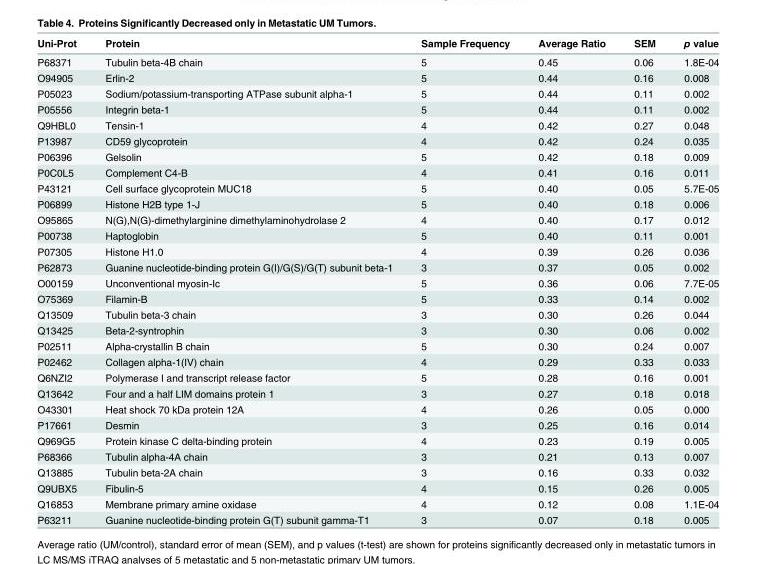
<table><thead><tr><td>Uni-Prot</td><td>Protein</td><td>Sample Frequency</td><td>Average Ratio</td><td>SEM</td><td>p value</td></tr></thead><tbody><tr><td>P68371</td><td>Tubulin beta-4B chain</td><td>5</td><td>0.45</td><td>0.06</td><td>1.8E-04</td></tr><tr><td>O94905</td><td>Erlin-2</td><td>5</td><td>0.44</td><td>0.16</td><td>0.008</td></tr><tr><td>P05023</td><td>Sodium/potassium-transporting ATPase subunit alpha-1</td><td>5</td><td>0.44</td><td>0.11</td><td>0.002</td></tr><tr><td>P05556</td><td>Integrin beta-1</td><td>5</td><td>0.44</td><td>0.11</td><td>0.002</td></tr><tr><td>Q9HBL0</td><td>Tensin-1</td><td>4</td><td>0.42</td><td>0.27</td><td>0.048</td></tr><tr><td>P13987</td><td>CD59 glycoprotein</td><td>4</td><td>0.42</td><td>0.24</td><td>0.035</td></tr><tr><td>P06396</td><td>Gelsolin</td><td>5</td><td>0.42</td><td>0.18</td><td>0.009</td></tr><tr><td>P0C0L5</td><td>Complement C4-B</td><td>4</td><td>0.41</td><td>0.16</td><td>0.011</td></tr><tr><td>P43121</td><td>Cell surface glycoprotein MUC18</td><td>5</td><td>0.40</td><td>0.05</td><td>5.7E-05</td></tr><tr><td>P06899</td><td>Histone H2B type 1-J</td><td>5</td><td>0.40</td><td>0.18</td><td>0.006</td></tr><tr><td>O95865</td><td>N(G),N(G)-dimethylarginine dimethylaminohydrolase 2</td><td>4</td><td>0.40</td><td>0.17</td><td>0.012</td></tr><tr><td>P00738</td><td>Haptoglobin</td><td>5</td><td>0.40</td><td>0.11</td><td>0.001</td></tr><tr><td>P07305</td><td>Histone H1.0</td><td>4</td><td>0.39</td><td>0.26</td><td>0.036</td></tr><tr><td>P62873</td><td>Guanine nucleotide-binding protein G(I)/G(S)/G(T) subunit beta-1</td><td>3</td><td>0.37</td><td>0.05</td><td>0.002</td></tr><tr><td>O00159</td><td>Unconventional myosin-Ic</td><td>5</td><td>0.36</td><td>0.06</td><td>7.7E-05</td></tr><tr><td>O75369</td><td>Filamin-B</td><td>5</td><td>0.33</td><td>0.14</td><td>0.002</td></tr><tr><td>Q13509</td><td>Tubulin beta-3 chain</td><td>3</td><td>0.30</td><td>0.26</td><td>0.044</td></tr><tr><td>Q13425</td><td>Beta-2-syntrophin</td><td>3</td><td>0.30</td><td>0.06</td><td>0.002</td></tr><tr><td>P02511</td><td>Alpha-crystallin B chain</td><td>5</td><td>0.30</td><td>0.24</td><td>0.007</td></tr><tr><td>P02462</td><td>Collagen alpha-1(IV) chain</td><td>4</td><td>0.29</td><td>0.33</td><td>0.033</td></tr><tr><td>Q6NZI2</td><td>Polymerase I and transcript release factor</td><td>5</td><td>0.28</td><td>0.16</td><td>0.001</td></tr><tr><td>Q13642</td><td>Four and a half LIM domains protein 1</td><td>3</td><td>0.27</td><td>0.18</td><td>0.018</td></tr><tr><td>O43301</td><td>Heat shock 70 kDa protein 12A</td><td>4</td><td>0.26</td><td>0.05</td><td>0.000</td></tr><tr><td>P17661</td><td>Desmin</td><td>3</td><td>0.25</td><td>0.16</td><td>0.014</td></tr><tr><td>Q969G5</td><td>Protein kinase C delta-binding protein</td><td>4</td><td>0.23</td><td>0.19</td><td>0.005</td></tr><tr><td>P68366</td><td>Tubulin alpha-4A chain</td><td>3</td><td>0.21</td><td>0.13</td><td>0.007</td></tr><tr><td>Q13885</td><td>Tubulin beta-2A chain</td><td>3</td><td>0.16</td><td>0.33</td><td>0.032</td></tr><tr><td>Q9UBX5</td><td>Fibulin-5</td><td>4</td><td>0.15</td><td>0.26</td><td>0.005</td></tr><tr><td>Q16853</td><td>Membrane primary amine oxidase</td><td>4</td><td>0.12</td><td>0.08</td><td>1.1E-04</td></tr><tr><td>P63211</td><td>Guanine nucleotide-binding protein G(T) subunit gamma-T1</td><td>3</td><td>0.07</td><td>0.18</td><td>0.005</td></tr></tbody></table>